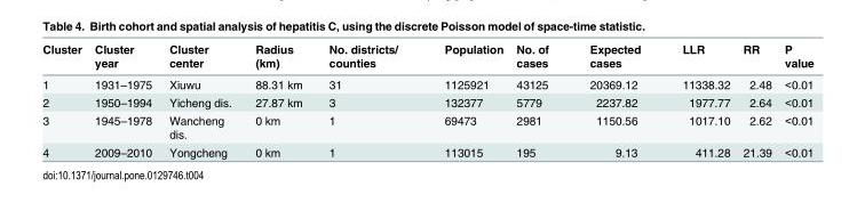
<table><thead><tr><td>Cluster</td><td>Cluster year</td><td>Cluster center</td><td>Radius (km)</td><td>No. districts/ counties</td><td>Population</td><td>No. of cases</td><td>Expected cases</td><td>LLR</td><td>RR</td><td>P value</td></tr></thead><tbody><tr><td>1</td><td>1931–1975</td><td>Xiuwu</td><td>88.31 km</td><td>31</td><td>1125921</td><td>43125</td><td>20369.12</td><td>11338.32</td><td>2.48</td><td>&lt;0.01</td></tr><tr><td>2</td><td>1950–1994</td><td>Yicheng dis.</td><td>27.87 km</td><td>3</td><td>132377</td><td>5779</td><td>2237.82</td><td>1977.77</td><td>2.64</td><td>&lt;0.01</td></tr><tr><td>3</td><td>1945–1978</td><td>Wancheng dis.</td><td>0 km</td><td>1</td><td>69473</td><td>2981</td><td>1150.56</td><td>1017.10</td><td>2.62</td><td>&lt;0.01</td></tr><tr><td>4</td><td>2009–2010</td><td>Yongcheng</td><td>0 km</td><td>1</td><td>113015</td><td>195</td><td>9.13</td><td>411.28</td><td>21.39</td><td>&lt;0.01</td></tr></tbody></table>